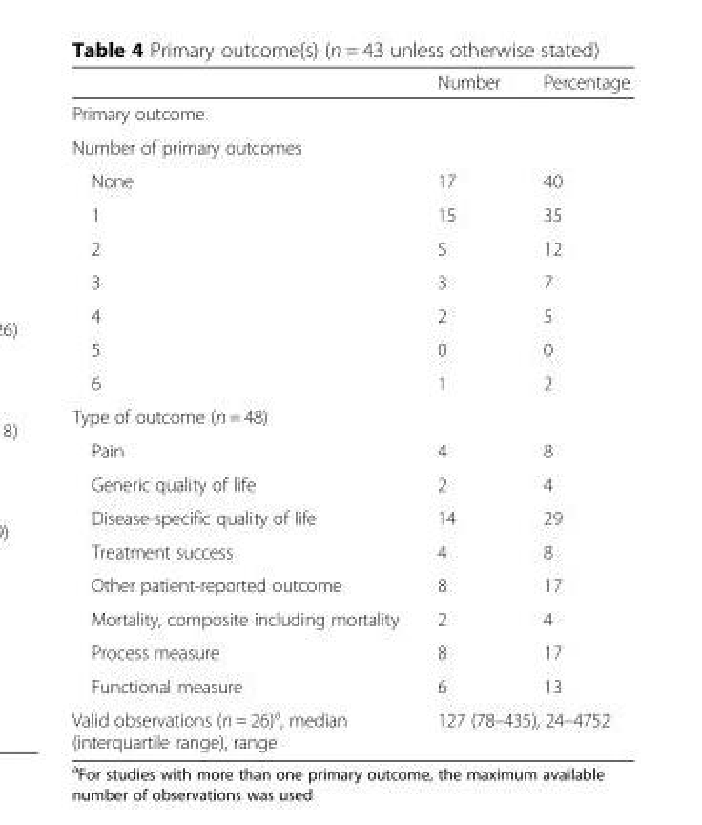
<table><thead><tr><td></td><td>Number</td><td>Percentage</td></tr></thead><tbody><tr><td colspan="3">Primary outcome</td></tr><tr><td colspan="3">Number of primary outcomes</td></tr><tr><td>None</td><td>17</td><td>40</td></tr><tr><td>1</td><td>15</td><td>35</td></tr><tr><td>2</td><td>5</td><td>12</td></tr><tr><td>3</td><td>3</td><td>7</td></tr><tr><td>4</td><td>2</td><td>5</td></tr><tr><td>5</td><td>0</td><td>0</td></tr><tr><td>6</td><td>1</td><td>2</td></tr><tr><td colspan="3">Type of outcome (n = 48)</td></tr><tr><td>Pain</td><td>4</td><td>8</td></tr><tr><td>Generic quality of life</td><td>2</td><td>4</td></tr><tr><td>Disease-specific quality of life</td><td>14</td><td>29</td></tr><tr><td>Treatment success</td><td>4</td><td>8</td></tr><tr><td>Other patient-reported outcome</td><td>8</td><td>17</td></tr><tr><td>Mortality, composite including mortality</td><td>2</td><td>4</td></tr><tr><td>Process measure</td><td>8</td><td>17</td></tr><tr><td>Functional measure</td><td>6</td><td>13</td></tr><tr><td>Valid observations (n = 26)<sup>a</sup>, median (interquartile range), range</td><td colspan="2">127 (78–435), 24–4752</td></tr></tbody></table>